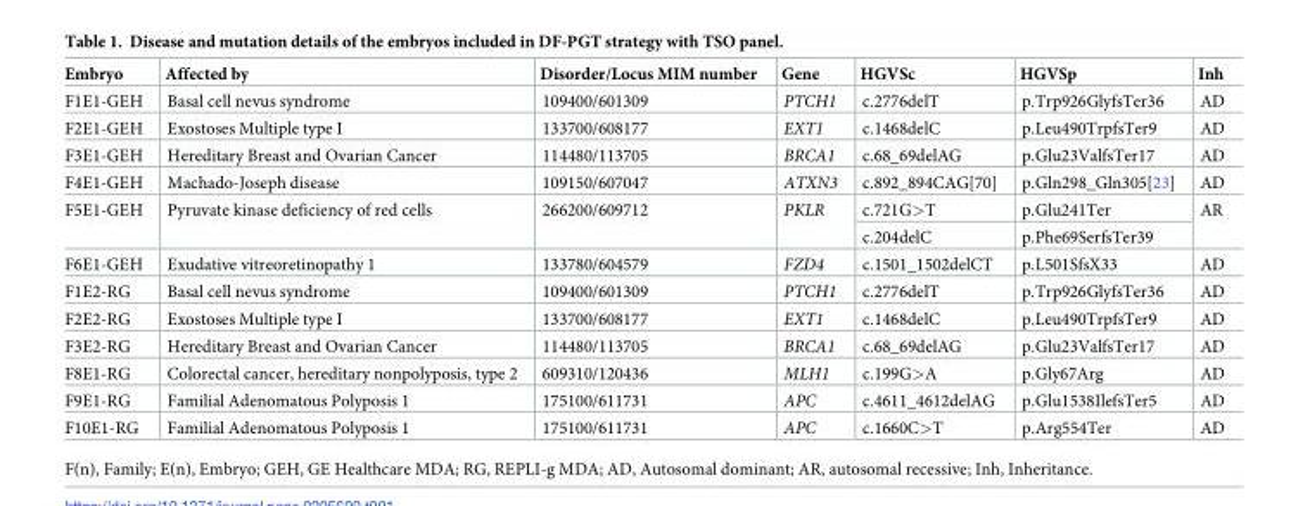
<table><thead><tr><td>Embryo</td><td>Affected by</td><td>Disorder/Locus MIM number</td><td>Gene</td><td>HGVSc</td><td>HGVSp</td><td>Inh</td></tr></thead><tbody><tr><td>F1E1-GEH</td><td>Basal cell nevus syndrome</td><td>109400/601309</td><td>PTCH1</td><td>c.2776delT</td><td>p.Trp926GlyfsTer36</td><td>AD</td></tr><tr><td>F2E1-GEH</td><td>Exostoses Multiple type I</td><td>133700/608177</td><td>EXT1</td><td>c.1468delC</td><td>p.Leu490TrpfsTer9</td><td>AD</td></tr><tr><td>F3E1-GEH</td><td>Hereditary Breast and Ovarian Cancer</td><td>114480/113705</td><td>BRCA1</td><td>c.68_69delAG</td><td>p.Glu23ValfsTer17</td><td>AD</td></tr><tr><td>F4E1-GEH</td><td>Machado-Joseph disease</td><td>109150/607047</td><td>ATXN3</td><td>c.892_894CAG[70]</td><td>p.Gln298_Gln305[23]</td><td>AD</td></tr><tr><td rowspan="2">F5E1-GEH</td><td rowspan="2">Pyruvate kinase deficiency of red cells</td><td rowspan="2">266200/609712</td><td rowspan="2">PKLR</td><td>c.721G&gt;T</td><td>p.Glu241Ter</td><td rowspan="2">AR</td></tr><tr><td>c.204delC</td><td>p.Phe69SerfsTer39</td></tr><tr><td>F6E1-GEH</td><td>Exudative vitreoretinopathy 1</td><td>133780/604579</td><td>FZD4</td><td>c.1501_1502delCT</td><td>p.L501SfsX33</td><td>AD</td></tr><tr><td>F1E2-RG</td><td>Basal cell nevus syndrome</td><td>109400/601309</td><td>PTCH1</td><td>c.2776delT</td><td>p.Trp926GlyfsTer36</td><td>AD</td></tr><tr><td>F2E2-RG</td><td>Exostoses Multiple type I</td><td>133700/608177</td><td>EXT1</td><td>c.1468delC</td><td>p.Leu490TrpfsTer9</td><td>AD</td></tr><tr><td>F3E2-RG</td><td>Hereditary Breast and Ovarian Cancer</td><td>114480/113705</td><td>BRCA1</td><td>c.68_69delAG</td><td>p.Glu23ValfsTer17</td><td>AD</td></tr><tr><td>F8E1-RG</td><td>Colorectal cancer, hereditary nonpolyposis, type 2</td><td>609310/120436</td><td>MLH1</td><td>c.199G&gt;A</td><td>p.Gly67Arg</td><td>AD</td></tr><tr><td>F9E1-RG</td><td>Familial Adenomatous Polyposis 1</td><td>175100/611731</td><td>APC</td><td>c.4611_4612delAG</td><td>p.Glu1538IlefsTer5</td><td>AD</td></tr><tr><td>F10E1-RG</td><td>Familial Adenomatous Polyposis 1</td><td>175100/611731</td><td>APC</td><td>c.1660C&gt;T</td><td>p.Arg554Ter</td><td>AD</td></tr></tbody></table>